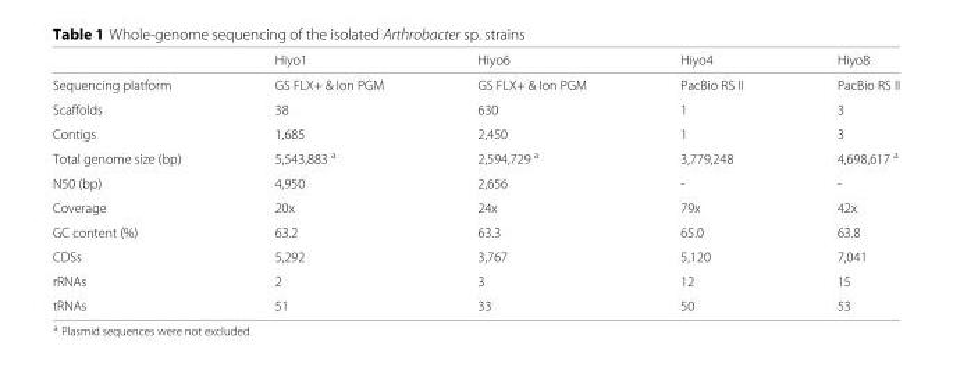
<table><thead><tr><td></td><td>Hiyo1</td><td>Hiyo6</td><td>Hiyo4</td><td>Hiyo8</td></tr></thead><tbody><tr><td>Sequencing platform</td><td>GS FLX+ &amp; Ion PGM</td><td>GS FLX+ &amp; Ion PGM</td><td>PacBio RS II</td><td>PacBio RS II</td></tr><tr><td>Scaffolds</td><td>38</td><td>630</td><td>1</td><td>3</td></tr><tr><td>Contigs</td><td>1,685</td><td>2,450</td><td>1</td><td>3</td></tr><tr><td>Total genome size (bp)</td><td>5,543,883 <sup>a</sup></td><td>2,594,729 <sup>a</sup></td><td>3,779,248</td><td>4,698,617 <sup>a</sup></td></tr><tr><td>N50 (bp)</td><td>4,950</td><td>2,656</td><td>-</td><td>-</td></tr><tr><td>Coverage</td><td>20x</td><td>24x</td><td>79x</td><td>42x</td></tr><tr><td>GC content (%)</td><td>63.2</td><td>63.3</td><td>65.0</td><td>63.8</td></tr><tr><td>CDSs</td><td>5,292</td><td>3,767</td><td>5,120</td><td>7,041</td></tr><tr><td>rRNAs</td><td>2</td><td>3</td><td>12</td><td>15</td></tr><tr><td>tRNAs</td><td>51</td><td>33</td><td>50</td><td>53</td></tr></tbody></table>